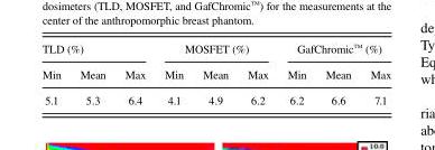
<table><thead><tr><td colspan="3">TLD (%)</td><td colspan="3">MOSFET (%)</td><td colspan="3">GafChromic TM (%)</td></tr><tr><td>Min</td><td>Mean</td><td>Max</td><td>Min</td><td>Mean</td><td>Max</td><td>Min</td><td>Mean</td><td>Max</td></tr></thead><tbody><tr><td>5.1</td><td>5.3</td><td>6.4</td><td>4.1</td><td>4.9</td><td>6.2</td><td>6.2</td><td>6.6</td><td>7.1</td></tr></tbody></table>